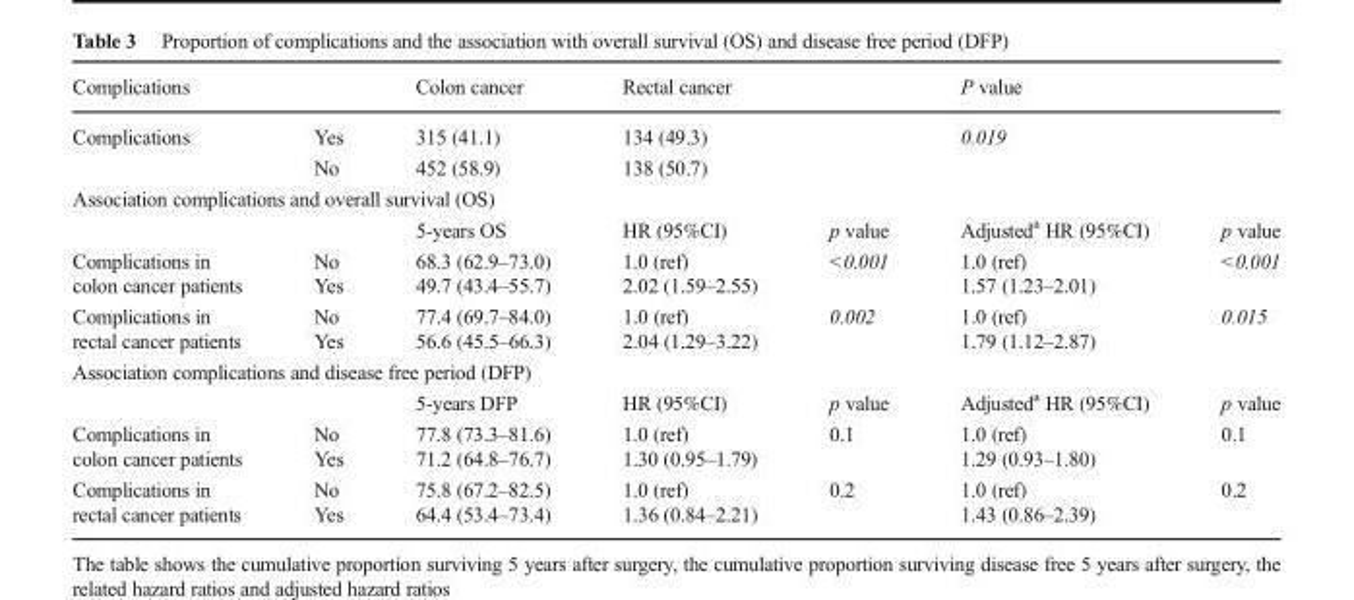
<table><thead><tr><td colspan="2">Complications</td><td>Colon cancer</td><td colspan="2">Rectal cancer</td><td colspan="2">P value</td></tr></thead><tbody><tr><td rowspan="2">Complications</td><td>Yes</td><td>315 (41.1)</td><td colspan="2">134 (49.3)</td><td colspan="2">0.019</td></tr><tr><td>No</td><td>452 (58.9)</td><td colspan="2">138 (50.7)</td><td colspan="2"></td></tr><tr><td colspan="7">Association complications and overall survival (OS)</td></tr><tr><td></td><td></td><td>5-years OS</td><td>HR (95%CI)</td><td>p value</td><td>Adjusted<sup>a</sup> HR (95%CI)</td><td>p value</td></tr><tr><td>Complications in</td><td>No</td><td>68.3 (62.9–73.0)</td><td>1.0 (ref)</td><td rowspan="2">&lt;0.001</td><td>1.0 (ref)</td><td rowspan="2">&lt;0.001</td></tr><tr><td>colon cancer patients</td><td>Yes</td><td>49.7 (43.4–55.7)</td><td>2.02 (1.59–2.55)</td><td>1.57 (1.23–2.01)</td></tr><tr><td>Complications in</td><td>No</td><td>77.4 (69.7–84.0)</td><td>1.0 (ref)</td><td rowspan="2">0.002</td><td>1.0 (ref)</td><td rowspan="2">0.015</td></tr><tr><td>rectal cancer patients</td><td>Yes</td><td>56.6 (45.5–66.3)</td><td>2.04 (1.29–3.22)</td><td>1.79 (1.12–2.87)</td></tr><tr><td colspan="7">Association complications and disease free period (DFP)</td></tr><tr><td></td><td></td><td>5-years DFP</td><td>HR (95%CI)</td><td>p value</td><td>Adjusted<sup>a</sup> HR (95%CI)</td><td>p value</td></tr><tr><td>Complications in</td><td>No</td><td>77.8 (73.3–81.6)</td><td>1.0 (ref)</td><td rowspan="2">0.1</td><td>1.0 (ref)</td><td rowspan="2">0.1</td></tr><tr><td>colon cancer patients</td><td>Yes</td><td>71.2 (64.8–76.7)</td><td>1.30 (0.95–1.79)</td><td>1.29 (0.93–1.80)</td></tr><tr><td>Complications in</td><td>No</td><td>75.8 (67.2–82.5)</td><td>1.0 (ref)</td><td rowspan="2">0.2</td><td>1.0 (ref)</td><td rowspan="2">0.2</td></tr><tr><td>rectal cancer patients</td><td>Yes</td><td>64.4 (53.4–73.4)</td><td>1.36 (0.84–2.21)</td><td>1.43 (0.86–2.39)</td></tr></tbody></table>